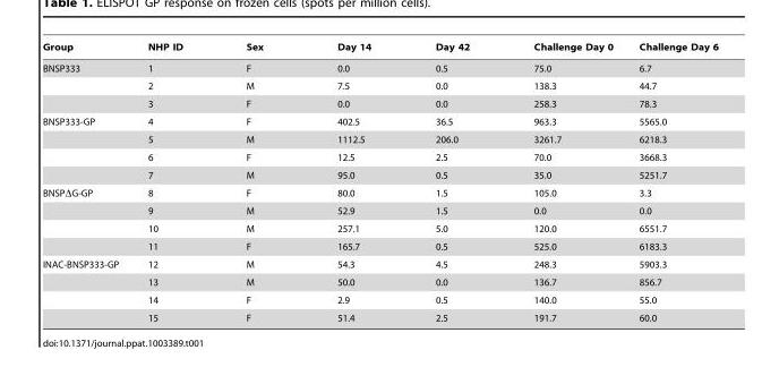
<table><thead><tr><td>Group</td><td>NHP ID</td><td>Sex</td><td>Day 14</td><td>Day 42</td><td>Challenge Day 0</td><td>Challenge Day 6</td></tr></thead><tbody><tr><td rowspan="3">BNSP333</td><td>1</td><td>F</td><td>0.0</td><td>0.5</td><td>75.0</td><td>6.7</td></tr><tr><td>2</td><td>M</td><td>7.5</td><td>0.0</td><td>138.3</td><td>44.7</td></tr><tr><td>3</td><td>F</td><td>0.0</td><td>0.0</td><td>258.3</td><td>78.3</td></tr><tr><td rowspan="4">BNSP333-GP</td><td>4</td><td>F</td><td>402.5</td><td>36.5</td><td>963.3</td><td>5565.0</td></tr><tr><td>5</td><td>M</td><td>1112.5</td><td>206.0</td><td>3261.7</td><td>6218.3</td></tr><tr><td>6</td><td>F</td><td>12.5</td><td>2.5</td><td>70.0</td><td>3668.3</td></tr><tr><td>7</td><td>M</td><td>95.0</td><td>0.5</td><td>35.0</td><td>5251.7</td></tr><tr><td rowspan="4">BNSPΔG-GP</td><td>8</td><td>F</td><td>80.0</td><td>1.5</td><td>105.0</td><td>3.3</td></tr><tr><td>9</td><td>M</td><td>52.9</td><td>1.5</td><td>0.0</td><td>0.0</td></tr><tr><td>10</td><td>M</td><td>257.1</td><td>5.0</td><td>120.0</td><td>6551.7</td></tr><tr><td>11</td><td>F</td><td>165.7</td><td>0.5</td><td>525.0</td><td>6183.3</td></tr><tr><td rowspan="4">INAC-BNSP333-GP</td><td>12</td><td>M</td><td>54.3</td><td>4.5</td><td>248.3</td><td>5903.3</td></tr><tr><td>13</td><td>M</td><td>50.0</td><td>0.0</td><td>136.7</td><td>856.7</td></tr><tr><td>14</td><td>F</td><td>2.9</td><td>0.5</td><td>140.0</td><td>55.0</td></tr><tr><td>15</td><td>F</td><td>51.4</td><td>2.5</td><td>191.7</td><td>60.0</td></tr></tbody></table>